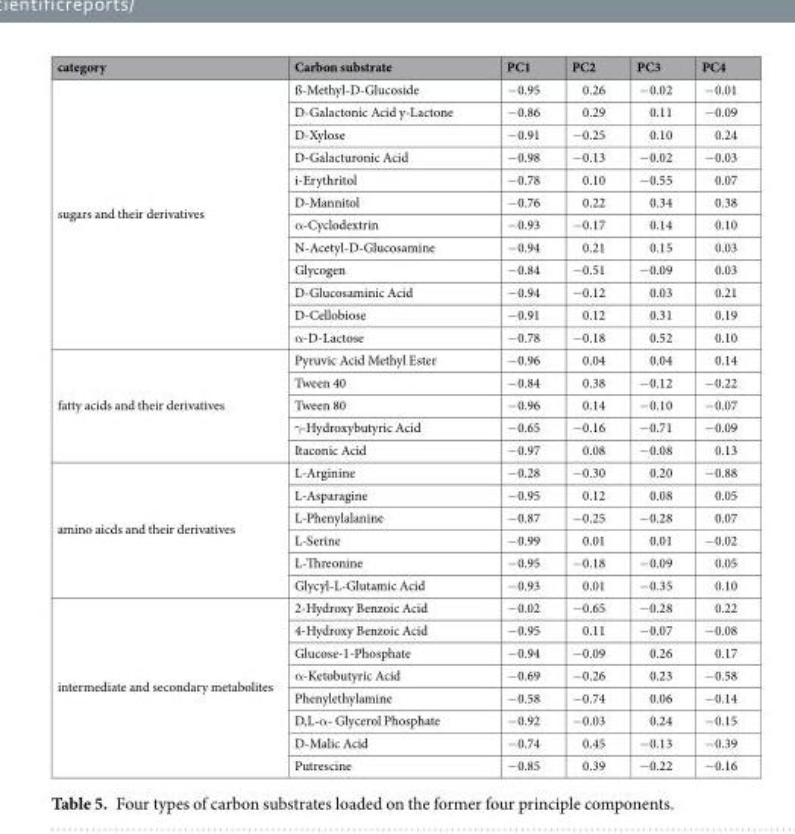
<table><thead><tr><td>category</td><td>Carbon substrate</td><td>PC1</td><td>PC2</td><td>PC3</td><td>PC4</td></tr></thead><tbody><tr><td rowspan="12">sugars and their derivatives</td><td>ß-Methyl-D-Glucoside</td><td>−0.95</td><td>0.26</td><td>−0.02</td><td>−0.01</td></tr><tr><td>D-Galactonic Acid y-Lactone</td><td>−0.86</td><td>0.29</td><td>0.11</td><td>−0.09</td></tr><tr><td>D-Xylose</td><td>−0.91</td><td>−0.25</td><td>0.10</td><td>0.24</td></tr><tr><td>D-Galacturonic Acid</td><td>−0.98</td><td>−0.13</td><td>−0.02</td><td>−0.03</td></tr><tr><td>i-Erythritol</td><td>−0.78</td><td>0.10</td><td>−0.55</td><td>0.07</td></tr><tr><td>D-Mannitol</td><td>−0.76</td><td>0.22</td><td>0.34</td><td>0.38</td></tr><tr><td>α-Cyclodextrin</td><td>−0.93</td><td>−0.17</td><td>0.14</td><td>0.10</td></tr><tr><td>N-Acetyl-D-Glucosamine</td><td>−0.94</td><td>0.21</td><td>0.15</td><td>0.03</td></tr><tr><td>Glycogen</td><td>−0.84</td><td>−0.51</td><td>−0.09</td><td>0.03</td></tr><tr><td>D-Glucosaminic Acid</td><td>−0.94</td><td>−0.12</td><td>0.03</td><td>0.21</td></tr><tr><td>D-Cellobiose</td><td>−0.91</td><td>0.12</td><td>0.31</td><td>0.19</td></tr><tr><td>α-D-Lactose</td><td>−0.78</td><td>−0.18</td><td>0.52</td><td>0.10</td></tr><tr><td rowspan="5">fatty acids and their derivatives</td><td>Pyruvic Acid Methyl Ester</td><td>−0.96</td><td>0.04</td><td>0.04</td><td>0.14</td></tr><tr><td>Tween 40</td><td>−0.84</td><td>0.38</td><td>−0.12</td><td>−0.22</td></tr><tr><td>Tween 80</td><td>−0.96</td><td>0.14</td><td>−0.10</td><td>−0.07</td></tr><tr><td>γ-Hydroxybutyric Acid</td><td>−0.65</td><td>−0.16</td><td>−0.71</td><td>−0.09</td></tr><tr><td>Itaconic Acid</td><td>−0.97</td><td>0.08</td><td>−0.08</td><td>0.13</td></tr><tr><td rowspan="6">amino aicds and their derivatives</td><td>L-Arginine</td><td>−0.28</td><td>−0.30</td><td>0.20</td><td>−0.88</td></tr><tr><td>L-Asparagine</td><td>−0.95</td><td>0.12</td><td>0.08</td><td>0.05</td></tr><tr><td>L-Phenylalanine</td><td>−0.87</td><td>−0.25</td><td>−0.28</td><td>0.07</td></tr><tr><td>L-Serine</td><td>−0.99</td><td>0.01</td><td>0.01</td><td>−0.02</td></tr><tr><td>L-Threonine</td><td>−0.95</td><td>−0.18</td><td>−0.09</td><td>0.05</td></tr><tr><td>Glycyl-L-Glutamic Acid</td><td>−0.93</td><td>0.01</td><td>−0.35</td><td>0.10</td></tr><tr><td rowspan="8">intermediate and secondary metabolites</td><td>2-Hydroxy Benzoic Acid</td><td>−0.02</td><td>−0.65</td><td>−0.28</td><td>0.22</td></tr><tr><td>4-Hydroxy Benzoic Acid</td><td>−0.95</td><td>0.11</td><td>−0.07</td><td>−0.08</td></tr><tr><td>Glucose-1-Phosphate</td><td>−0.94</td><td>−0.09</td><td>0.26</td><td>0.17</td></tr><tr><td>α-Ketobutyric Acid</td><td>−0.69</td><td>−0.26</td><td>0.23</td><td>−0.58</td></tr><tr><td>Phenylethylamine</td><td>−0.58</td><td>−0.74</td><td>0.06</td><td>−0.14</td></tr><tr><td>D,L-α- Glycerol Phosphate</td><td>−0.92</td><td>−0.03</td><td>0.24</td><td>−0.15</td></tr><tr><td>D-Malic Acid</td><td>−0.74</td><td>0.45</td><td>−0.13</td><td>−0.39</td></tr><tr><td>Putrescine</td><td>−0.85</td><td>0.39</td><td>−0.22</td><td>−0.16</td></tr></tbody></table>